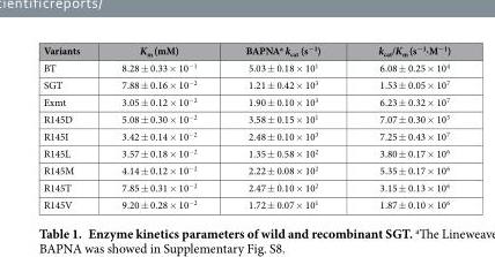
<table><thead><tr><td>Variants</td><td>K<sub>m</sub> (mM)</td><td>BAPNA<sup>a</sup> k<sub>cat</sub> (s<sup>−1</sup>)</td><td>k<sub>cat</sub>/K<sub>m</sub> (s<sup>−1</sup>·M<sup>−1</sup>)</td></tr></thead><tbody><tr><td>BT</td><td>8.28 ± 0.33 × 10<sup>−1</sup></td><td>5.03 ± 0.18 × 10<sup>1</sup></td><td>6.08 ± 0.25 × 10<sup>4</sup></td></tr><tr><td>SGT</td><td>7.88 ± 0.16 × 10<sup>−2</sup></td><td>1.21 ± 0.42 × 10<sup>3</sup></td><td>1.53 ± 0.05 × 10<sup>7</sup></td></tr><tr><td>Exmt</td><td>3.05 ± 0.12 × 10<sup>−2</sup></td><td>1.90 ± 0.10 × 10<sup>3</sup></td><td>6.23 ± 0.32 × 10<sup>7</sup></td></tr><tr><td>R145D</td><td>5.08 ± 0.30 × 10<sup>−2</sup></td><td>3.58 ± 0.15 × 10<sup>1</sup></td><td>7.07 ± 0.30 × 10<sup>5</sup></td></tr><tr><td>R145I</td><td>3.42 ± 0.14 × 10<sup>−2</sup></td><td>2.48 ± 0.10 × 10<sup>3</sup></td><td>7.25 ± 0.43 × 10<sup>7</sup></td></tr><tr><td>R145L</td><td>3.57 ± 0.18 × 10<sup>−2</sup></td><td>1.35 ± 0.58 × 10<sup>2</sup></td><td>3.80 ± 0.17 × 10<sup>6</sup></td></tr><tr><td>R145M</td><td>4.14 ± 0.12 × 10<sup>−2</sup></td><td>2.22 ± 0.08 × 10<sup>2</sup></td><td>5.35 ± 0.17 × 10<sup>6</sup></td></tr><tr><td>R145T</td><td>7.85 ± 0.31 × 10<sup>−2</sup></td><td>2.47 ± 0.10 × 10<sup>2</sup></td><td>3.15 ± 0.13 × 10<sup>6</sup></td></tr><tr><td>R145V</td><td>9.20 ± 0.28 × 10<sup>−2</sup></td><td>1.72 ± 0.07 × 10<sup>1</sup></td><td>1.87 ± 0.10 × 10<sup>6</sup></td></tr></tbody></table>